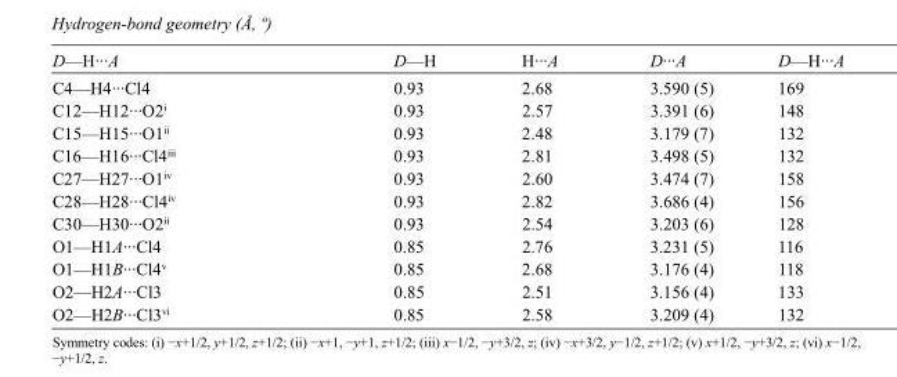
<table><tbody><tr><td>D—H···A</td><td>D—H</td><td>H···A</td><td>D···A</td><td>D—H···A</td></tr><tr><td>C4—H4···Cl4</td><td>0.93</td><td>2.68</td><td>3.590 (5)</td><td>169</td></tr><tr><td>C12—H12···O2<sup>i</sup></td><td>0.93</td><td>2.57</td><td>3.391 (6)</td><td>148</td></tr><tr><td>C15—H15···O1<sup>ii</sup></td><td>0.93</td><td>2.48</td><td>3.179 (7)</td><td>132</td></tr><tr><td>C16—H16···Cl4<sup>iii</sup></td><td>0.93</td><td>2.81</td><td>3.498 (5)</td><td>132</td></tr><tr><td>C27—H27···O1<sup>iv</sup></td><td>0.93</td><td>2.60</td><td>3.474 (7)</td><td>158</td></tr><tr><td>C28—H28···Cl4<sup>iv</sup></td><td>0.93</td><td>2.82</td><td>3.686 (4)</td><td>156</td></tr><tr><td>C30—H30···O2<sup>ii</sup></td><td>0.93</td><td>2.54</td><td>3.203 (6)</td><td>128</td></tr><tr><td>O1—H1A···Cl4</td><td>0.85</td><td>2.76</td><td>3.231 (5)</td><td>116</td></tr><tr><td>O1—H1B···Cl4<sup>v</sup></td><td>0.85</td><td>2.68</td><td>3.176 (4)</td><td>118</td></tr><tr><td>O2—H2A···Cl3</td><td>0.85</td><td>2.51</td><td>3.156 (4)</td><td>133</td></tr><tr><td>O2—H2B···Cl3<sup>vi</sup></td><td>0.85</td><td>2.58</td><td>3.209 (4)</td><td>132</td></tr></tbody></table>